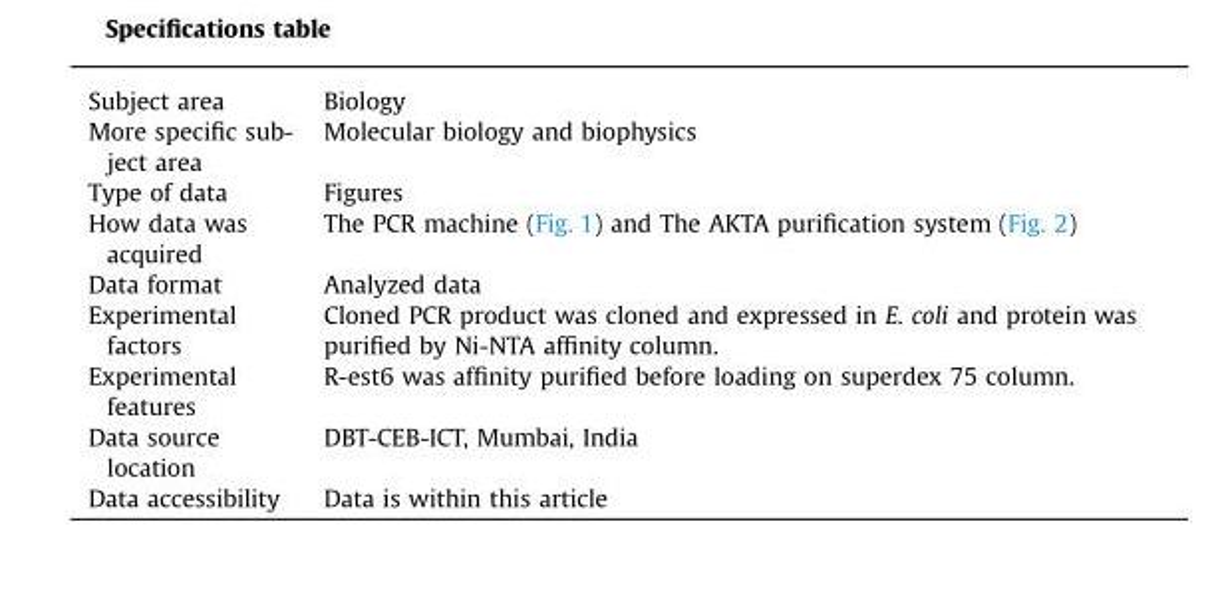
<table><tbody><tr><td>Subject area</td><td>Biology</td></tr><tr><td>More specific sub- ject area</td><td>Molecular biology and biophysics</td></tr><tr><td>Type of data</td><td>Figures</td></tr><tr><td>How data was acquired</td><td>The PCR machine (Fig. 1) and The AKTA purification system (Fig. 2)</td></tr><tr><td>Data format</td><td>Analyzed data</td></tr><tr><td>Experimental factors</td><td>Cloned PCR product was cloned and expressed in E. coli and protein was purified by Ni-NTA affinity column.</td></tr><tr><td>Experimental features</td><td>R-est6 was affinity purified before loading on superdex 75 column.</td></tr><tr><td>Data source location</td><td>DBT-CEB-ICT, Mumbai, India</td></tr><tr><td>Data accessibility</td><td>Data is within this article</td></tr></tbody></table>